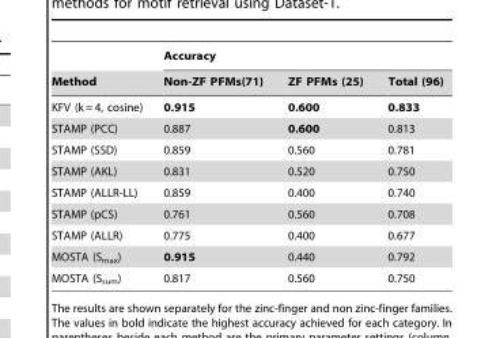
<table><thead><tr><td rowspan="2">Method</td><td colspan="3">Accuracy</td></tr><tr><td>Non-ZF PFMs(71)</td><td>ZF PFMs (25)</td><td>Total (96)</td></tr></thead><tbody><tr><td>KFV (k = 4, cosine)</td><td>0.915</td><td>0.600</td><td>0.833</td></tr><tr><td>STAMP (PCC)</td><td>0.887</td><td>0.600</td><td>0.813</td></tr><tr><td>STAMP (SSD)</td><td>0.859</td><td>0.560</td><td>0.781</td></tr><tr><td>STAMP (AKL)</td><td>0.831</td><td>0.520</td><td>0.750</td></tr><tr><td>STAMP (ALLR-LL)</td><td>0.859</td><td>0.400</td><td>0.740</td></tr><tr><td>STAMP (pCS)</td><td>0.761</td><td>0.560</td><td>0.708</td></tr><tr><td>STAMP (ALLR)</td><td>0.775</td><td>0.400</td><td>0.677</td></tr><tr><td>MOSTA (S<sub>max</sub>)</td><td>0.915</td><td>0.440</td><td>0.792</td></tr><tr><td>MOSTA (S<sub>sum</sub>)</td><td>0.817</td><td>0.560</td><td>0.750</td></tr></tbody></table>